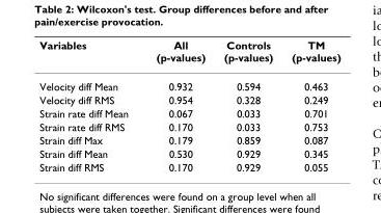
<table><thead><tr><td>Variables</td><td>All (p-values)</td><td>Controls (p-values)</td><td>TM (p-values)</td></tr></thead><tbody><tr><td>Velocity diff Mean</td><td>0.932</td><td>0.594</td><td>0.463</td></tr><tr><td>Velocity diff RMS</td><td>0.954</td><td>0.328</td><td>0.249</td></tr><tr><td>Strain rate diff Mean</td><td>0.067</td><td>0.033</td><td>0.701</td></tr><tr><td>Strain rate diff RMS</td><td>0.170</td><td>0.033</td><td>0.753</td></tr><tr><td>Strain diff Max</td><td>0.179</td><td>0.859</td><td>0.087</td></tr><tr><td>Strain diff Mean</td><td>0.530</td><td>0.929</td><td>0.345</td></tr><tr><td>Strain diff RMS</td><td>0.170</td><td>0.929</td><td>0.055</td></tr></tbody></table>